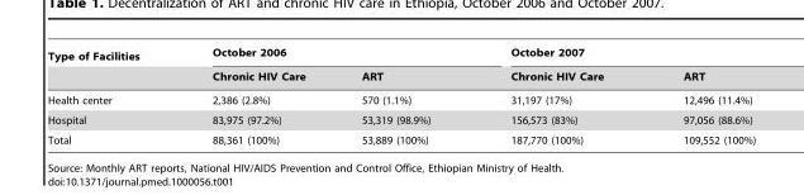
<table><thead><tr><td rowspan="2">Type of Facilities</td><td colspan="2">October 2006</td><td colspan="2">October 2007</td></tr><tr><td>Chronic HIV Care</td><td>ART</td><td>Chronic HIV Care</td><td>ART</td></tr></thead><tbody><tr><td>Health center</td><td>2,386 (2.8%)</td><td>570 (1.1%)</td><td>31,197 (17%)</td><td>12,496 (11.4%)</td></tr><tr><td>Hospital</td><td>83,975 (97.2%)</td><td>53,319 (98.9%)</td><td>156,573 (83%)</td><td>97,056 (88.6%)</td></tr><tr><td>Total</td><td>88,361 (100%)</td><td>53,889 (100%)</td><td>187,770 (100%)</td><td>109,552 (100%)</td></tr></tbody></table>